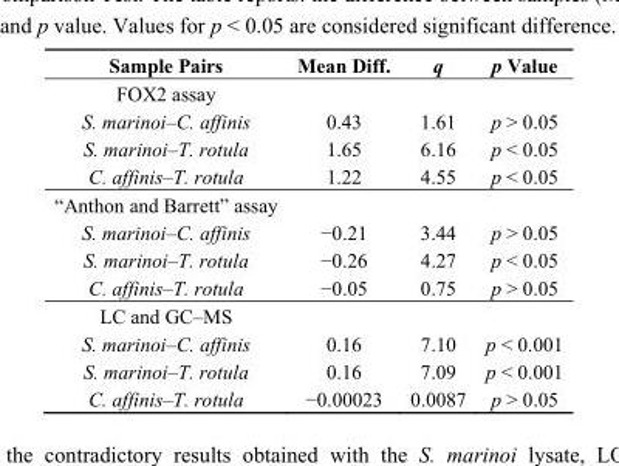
<table><thead><tr><td>Sample Pairs</td><td>Mean Diff.</td><td>q</td><td>p Value</td></tr></thead><tbody><tr><td colspan="4">FOX2 assay</td></tr><tr><td>S. marinoi–C. affinis</td><td>0.43</td><td>1.61</td><td>p &gt; 0.05</td></tr><tr><td>S. marinoi–T. rotula</td><td>1.65</td><td>6.16</td><td>p &lt; 0.05</td></tr><tr><td>C. affinis–T. rotula</td><td>1.22</td><td>4.55</td><td>p &lt; 0.05</td></tr><tr><td colspan="4">“Anthon and Barrett” assay</td></tr><tr><td>S. marinoi–C. affinis</td><td>−0.21</td><td>3.44</td><td>p &gt; 0.05</td></tr><tr><td>S. marinoi–T. rotula</td><td>−0.26</td><td>4.27</td><td>p &lt; 0.05</td></tr><tr><td>C. affinis–T. rotula</td><td>−0.05</td><td>0.75</td><td>p &gt; 0.05</td></tr><tr><td colspan="4">LC and GC–MS</td></tr><tr><td>S. marinoi–C. affinis</td><td>0.16</td><td>7.10</td><td>p &lt; 0.001</td></tr><tr><td>S. marinoi–T. rotula</td><td>0.16</td><td>7.09</td><td>p &lt; 0.001</td></tr><tr><td>C. affinis–T. rotula</td><td>−0.00023</td><td>0.0087</td><td>p &gt; 0.05</td></tr></tbody></table>